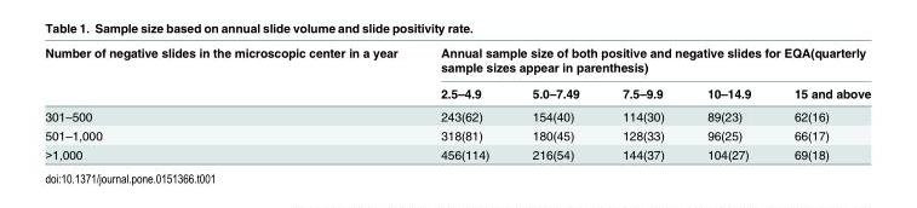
<table><thead><tr><td rowspan="2">Number of negative slides in the microscopic center in a year</td><td colspan="5">Annual sample size of both positive and negative slides for EQA(quarterly sample sizes appear in parenthesis)</td></tr><tr><td>2.5–4.9</td><td>5.0–7.49</td><td>7.5–9.9</td><td>10–14.9</td><td>15 and above</td></tr></thead><tbody><tr><td>301–500</td><td>243(62)</td><td>154(40)</td><td>114(30)</td><td>89(23)</td><td>62(16)</td></tr><tr><td>501–1,000</td><td>318(81)</td><td>180(45)</td><td>128(33)</td><td>96(25)</td><td>66(17)</td></tr><tr><td>&gt;1,000</td><td>456(114)</td><td>216(54)</td><td>144(37)</td><td>104(27)</td><td>69(18)</td></tr></tbody></table>